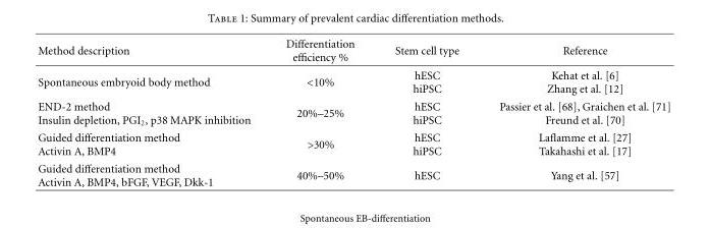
<table><thead><tr><td>Method description</td><td>Differentiation efficiency %</td><td>Stem cell type</td><td>Reference</td></tr></thead><tbody><tr><td>Spontaneous embryoid body method</td><td>&lt;10%</td><td>hESC hiPSC</td><td>Kehat et al. [6] Zhang et al. [12]</td></tr><tr><td>END-2 method Insulin depletion, PGI<sub>2</sub>, p38 MAPK inhibition</td><td>20%–25%</td><td>hESC hiPSC</td><td>Passier et al. [68], Graichen et al. [71] Freund et al. [70]</td></tr><tr><td>Guided differentiation method Activin A, BMP4</td><td>&gt;30%</td><td>hESC hiPSC</td><td>Laflamme et al. [27] Takahashi et al. [17]</td></tr><tr><td>Guided differentiation method Activin A, BMP4, bFGF, VEGF, Dkk-1</td><td>40%–50%</td><td>hESC</td><td>Yang et al. [57]</td></tr></tbody></table>